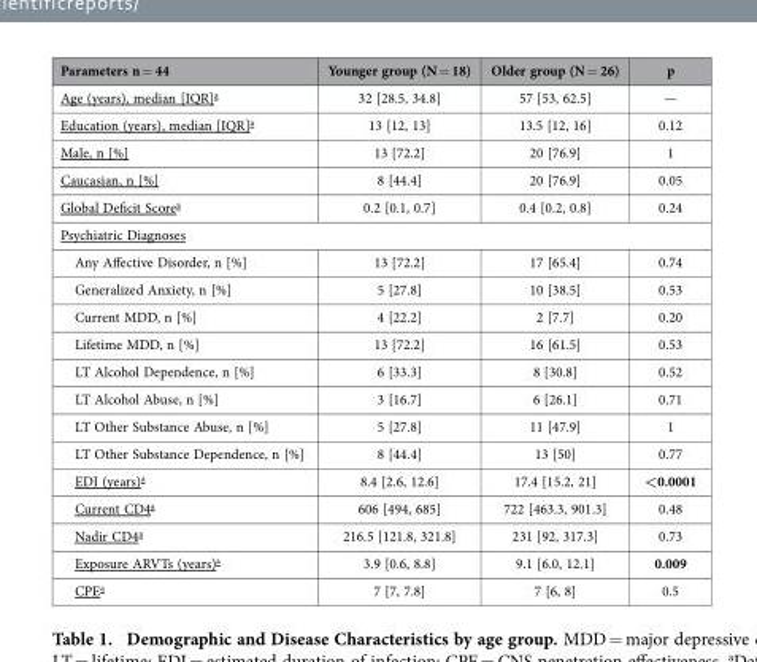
<table><thead><tr><td>Parameters n = 44</td><td>Younger group (N = 18)</td><td>Older group (N = 26)</td><td>p</td></tr></thead><tbody><tr><td>Age (years), median [IQR]<sup>a</sup></td><td>32 [28.5, 34.8]</td><td>57 [53, 62.5]</td><td>—</td></tr><tr><td>Education (years), median [IQR]<sup>a</sup></td><td>13 [12, 13]</td><td>13.5 [12, 16]</td><td>0.12</td></tr><tr><td>Male, n [%]</td><td>13 [72.2]</td><td>20 [76.9]</td><td>1</td></tr><tr><td>Caucasian, n [%]</td><td>8 [44.4]</td><td>20 [76.9]</td><td>0.05</td></tr><tr><td>Global Deficit Score<sup>a</sup></td><td>0.2 [0.1, 0.7]</td><td>0.4 [0.2, 0.8]</td><td>0.24</td></tr><tr><td colspan="4">Psychiatric Diagnoses</td></tr><tr><td>Any Affective Disorder, n [%]</td><td>13 [72.2]</td><td>17 [65.4]</td><td>0.74</td></tr><tr><td>Generalized Anxiety, n [%]</td><td>5 [27.8]</td><td>10 [38.5]</td><td>0.53</td></tr><tr><td>Current MDD, n [%]</td><td>4 [22.2]</td><td>2 [7.7]</td><td>0.20</td></tr><tr><td>Lifetime MDD, n [%]</td><td>13 [72.2]</td><td>16 [61.5]</td><td>0.53</td></tr><tr><td>LT Alcohol Dependence, n [%]</td><td>6 [33.3]</td><td>8 [30.8]</td><td>0.52</td></tr><tr><td>LT Alcohol Abuse, n [%]</td><td>3 [16.7]</td><td>6 [26.1]</td><td>0.71</td></tr><tr><td>LT Other Substance Abuse, n [%]</td><td>5 [27.8]</td><td>11 [47.9]</td><td>1</td></tr><tr><td>LT Other Substance Dependence, n [%]</td><td>8 [44.4]</td><td>13 [50]</td><td>0.77</td></tr><tr><td>EDI (years)<sup>a</sup></td><td>8.4 [2.6, 12.6]</td><td>17.4 [15.2, 21]</td><td>&lt;0.0001</td></tr><tr><td>Current CD4<sup>a</sup></td><td>606 [494, 685]</td><td>722 [463.3, 901.3]</td><td>0.48</td></tr><tr><td>Nadir CD4<sup>a</sup></td><td>216.5 [121.8, 321.8]</td><td>231 [92, 317.3]</td><td>0.73</td></tr><tr><td>Exposure ARVTs (years)<sup>a</sup></td><td>3.9 [0.6, 8.8]</td><td>9.1 [6.0, 12.1]</td><td>0.009</td></tr><tr><td>CPE<sup>a</sup></td><td>7 [7, 7.8]</td><td>7 [6, 8]</td><td>0.5</td></tr></tbody></table>